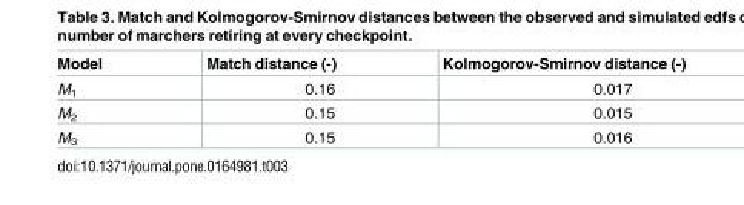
<table><thead><tr><td>Model</td><td>Match distance (-)</td><td>Kolmogorov-Smirnov distance (-)</td></tr></thead><tbody><tr><td>M<sub>1</sub></td><td>0.16</td><td>0.017</td></tr><tr><td>M<sub>2</sub></td><td>0.15</td><td>0.015</td></tr><tr><td>M<sub>3</sub></td><td>0.15</td><td>0.016</td></tr></tbody></table>